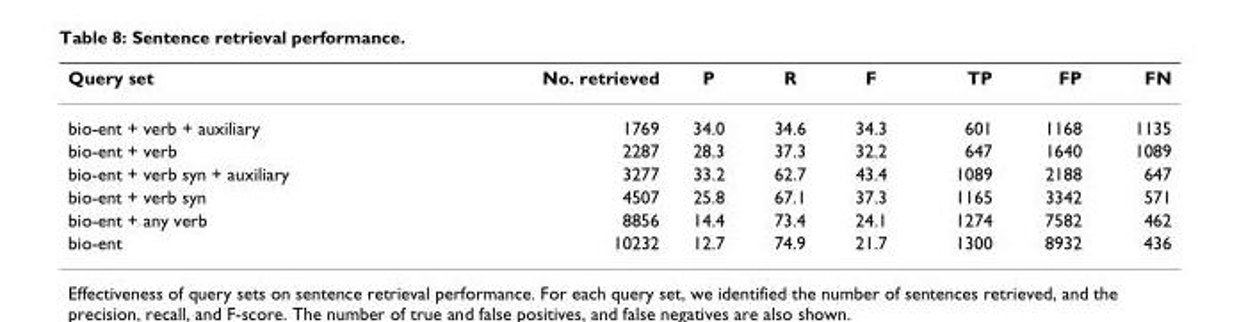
<table><thead><tr><td>Query set</td><td>No. retrieved</td><td>P</td><td>R</td><td>F</td><td>TP</td><td>FP</td><td>FN</td></tr></thead><tbody><tr><td>bio-ent + verb + auxiliary</td><td>1769</td><td>34.0</td><td>34.6</td><td>34.3</td><td>601</td><td>1168</td><td>1135</td></tr><tr><td>bio-ent + verb</td><td>2287</td><td>28.3</td><td>37.3</td><td>32.2</td><td>647</td><td>1640</td><td>1089</td></tr><tr><td>bio-ent + verb syn + auxiliary</td><td>3277</td><td>33.2</td><td>62.7</td><td>43.4</td><td>1089</td><td>2188</td><td>647</td></tr><tr><td>bio-ent + verb syn</td><td>4507</td><td>25.8</td><td>67.1</td><td>37.3</td><td>1165</td><td>3342</td><td>571</td></tr><tr><td>bio-ent + any verb</td><td>8856</td><td>14.4</td><td>73.4</td><td>24.1</td><td>1274</td><td>7582</td><td>462</td></tr><tr><td>bio-ent</td><td>10232</td><td>12.7</td><td>74.9</td><td>21.7</td><td>1300</td><td>8932</td><td>436</td></tr></tbody></table>